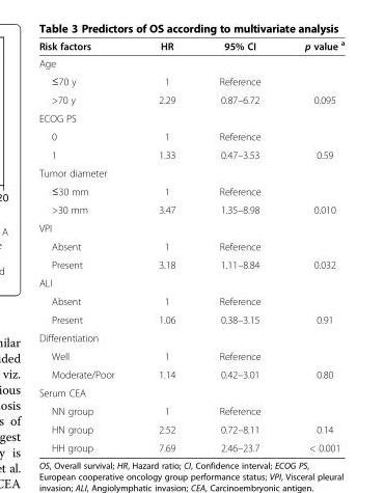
<table><thead><tr><td>Risk factors</td><td>HR</td><td>95% CI</td><td>p value <sup>a</sup></td></tr></thead><tbody><tr><td colspan="4">Age</td></tr><tr><td>≤70 y</td><td>1</td><td>Reference</td><td></td></tr><tr><td>&gt;70 y</td><td>2.29</td><td>0.87–6.72</td><td>0.095</td></tr><tr><td colspan="4">ECOG PS</td></tr><tr><td>0</td><td>1</td><td>Reference</td><td></td></tr><tr><td>1</td><td>1.33</td><td>0.47–3.53</td><td>0.59</td></tr><tr><td colspan="4">Tumor diameter</td></tr><tr><td>≤30 mm</td><td>1</td><td>Reference</td><td></td></tr><tr><td>&gt;30 mm</td><td>3.47</td><td>1.35–8.98</td><td>0.010</td></tr><tr><td colspan="4">VPI</td></tr><tr><td>Absent</td><td>1</td><td>Reference</td><td></td></tr><tr><td>Present</td><td>3.18</td><td>1.11–8.84</td><td>0.032</td></tr><tr><td colspan="4">ALI</td></tr><tr><td>Absent</td><td>1</td><td>Reference</td><td></td></tr><tr><td>Present</td><td>1.06</td><td>0.38–3.15</td><td>0.91</td></tr><tr><td colspan="4">Differentiation</td></tr><tr><td>Well</td><td>1</td><td>Reference</td><td></td></tr><tr><td>Moderate/Poor</td><td>1.14</td><td>0.42–3.01</td><td>0.80</td></tr><tr><td colspan="4">Serum CEA</td></tr><tr><td>NN group</td><td>1</td><td>Reference</td><td></td></tr><tr><td>HN group</td><td>2.52</td><td>0.72–8.11</td><td>0.14</td></tr><tr><td>HH group</td><td>7.69</td><td>2.46–23.7</td><td>&lt; 0.001</td></tr></tbody></table>